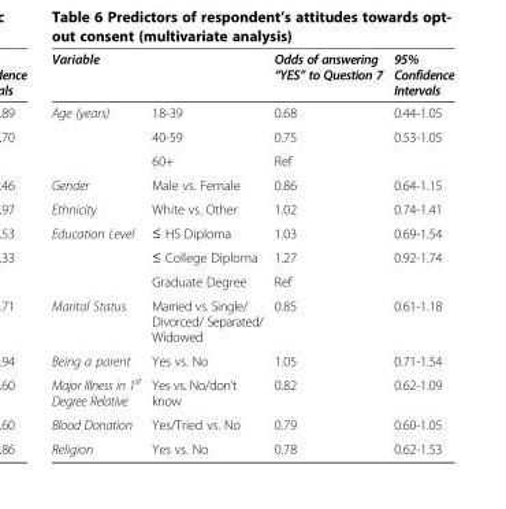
<table><thead><tr><td>Variable</td><td></td><td>Odds of answering “YES” to Question 7</td><td>95% Confidence Intervals</td></tr></thead><tbody><tr><td rowspan="3">Age (years)</td><td>18-39</td><td>0.68</td><td>0.44-1.05</td></tr><tr><td>40-59</td><td>0.75</td><td>0.53-1.05</td></tr><tr><td>60+</td><td>Ref</td><td></td></tr><tr><td>Gender</td><td>Male vs. Female</td><td>0.86</td><td>0.64-1.15</td></tr><tr><td>Ethnicity</td><td>White vs. Other</td><td>1.02</td><td>0.74-1.41</td></tr><tr><td rowspan="3">Education Level</td><td>≤ HS Diploma</td><td>1.03</td><td>0.69-1.54</td></tr><tr><td>≤ College Diploma</td><td>1.27</td><td>0.92-1.74</td></tr><tr><td>Graduate Degree</td><td>Ref</td><td></td></tr><tr><td>Marital Status</td><td>Married vs. Single/ Divorced/ Separated/ Widowed</td><td>0.85</td><td>0.61-1.18</td></tr><tr><td>Being a parent</td><td>Yes vs. No</td><td>1.05</td><td>0.71-1.54</td></tr><tr><td>Major Illness in 1<sup>st</sup> Degree Relative</td><td>Yes vs. No/don’t know</td><td>0.82</td><td>0.62-1.09</td></tr><tr><td>Blood Donation</td><td>Yes/Tried vs. No</td><td>0.79</td><td>0.60-1.05</td></tr><tr><td>Religion</td><td>Yes vs. No</td><td>0.78</td><td>0.62-1.53</td></tr></tbody></table>